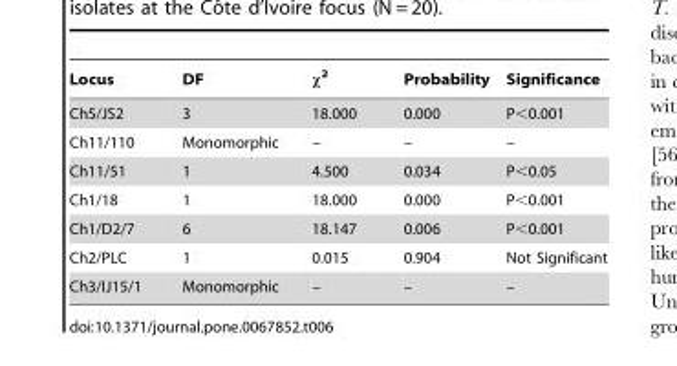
<table><thead><tr><td>Locus</td><td>DF</td><td>x2</td><td>Probability</td><td>Significance</td></tr></thead><tbody><tr><td>Ch5/JS2</td><td>3</td><td>18.000</td><td>0.000</td><td>P&lt;0.001</td></tr><tr><td>Ch11/110</td><td>Monomorphic</td><td>–</td><td>–</td><td>–</td></tr><tr><td>Ch11/51</td><td>1</td><td>4.500</td><td>0.034</td><td>P&lt;0.05</td></tr><tr><td>Ch1/18</td><td>1</td><td>18.000</td><td>0.000</td><td>P&lt;0.001</td></tr><tr><td>Ch1/D2/7</td><td>6</td><td>18.147</td><td>0.006</td><td>P&lt;0.001</td></tr><tr><td>Ch2/PLC</td><td>1</td><td>0.015</td><td>0.904</td><td>Not Significant</td></tr><tr><td>Ch3/IJ15/1</td><td>Monomorphic</td><td>–</td><td>–</td><td>–</td></tr></tbody></table>